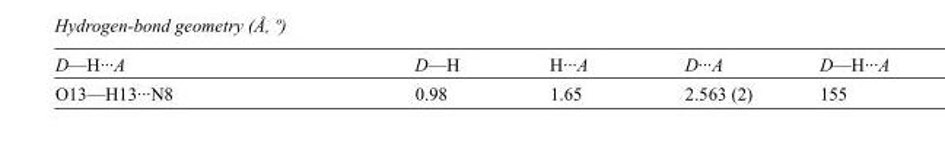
<table><tbody><tr><td>D—H···A</td><td>D—H</td><td>H···A</td><td>D···A</td><td>D—H···A</td></tr><tr><td>O13—H13···N8</td><td>0.98</td><td>1.65</td><td>2.563 (2)</td><td>155</td></tr></tbody></table>